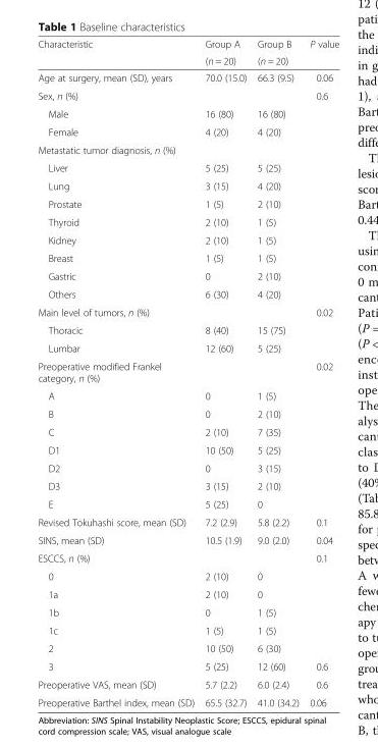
<table><thead><tr><td rowspan="2">Characteristic</td><td rowspan="2">Group A (n = 20)</td><td rowspan="2">Group B (n = 20)</td><td rowspan="2">P value</td></tr><tr></tr></thead><tbody><tr><td>Age at surgery, mean (SD), years</td><td>70.0 (15.0)</td><td>66.3 (9.5)</td><td>0.06</td></tr><tr><td>Sex, n (%)</td><td></td><td></td><td>0.6</td></tr><tr><td>Male</td><td>16 (80)</td><td>16 (80)</td><td></td></tr><tr><td>Female</td><td>4 (20)</td><td>4 (20)</td><td></td></tr><tr><td colspan="4">Metastatic tumor diagnosis, n (%)</td></tr><tr><td>Liver</td><td>5 (25)</td><td>5 (25)</td><td></td></tr><tr><td>Lung</td><td>3 (15)</td><td>4 (20)</td><td></td></tr><tr><td>Prostate</td><td>1 (5)</td><td>2 (10)</td><td></td></tr><tr><td>Thyroid</td><td>2 (10)</td><td>1 (5)</td><td></td></tr><tr><td>Kidney</td><td>2 (10)</td><td>1 (5)</td><td></td></tr><tr><td>Breast</td><td>1 (5)</td><td>1 (5)</td><td></td></tr><tr><td>Gastric</td><td>0</td><td>2 (10)</td><td></td></tr><tr><td>Others</td><td>6 (30)</td><td>4 (20)</td><td></td></tr><tr><td>Main level of tumors, n (%)</td><td></td><td></td><td>0.02</td></tr><tr><td>Thoracic</td><td>8 (40)</td><td>15 (75)</td><td></td></tr><tr><td>Lumbar</td><td>12 (60)</td><td>5 (25)</td><td></td></tr><tr><td>Preoperative modified Frankel category, n (%)</td><td></td><td></td><td>0.02</td></tr><tr><td>A</td><td>0</td><td>1 (5)</td><td></td></tr><tr><td>B</td><td>0</td><td>2 (10)</td><td></td></tr><tr><td>C</td><td>2 (10)</td><td>7 (35)</td><td></td></tr><tr><td>D1</td><td>10 (50)</td><td>5 (25)</td><td></td></tr><tr><td>D2</td><td>0</td><td>3 (15)</td><td></td></tr><tr><td>D3</td><td>3 (15)</td><td>2 (10)</td><td></td></tr><tr><td>E</td><td>5 (25)</td><td>0</td><td></td></tr><tr><td>Revised Tokuhashi score, mean (SD)</td><td>7.2 (2.9)</td><td>5.8 (2.2)</td><td>0.1</td></tr><tr><td>SINS, mean (SD)</td><td>10.5 (1.9)</td><td>9.0 (2.0)</td><td>0.04</td></tr><tr><td>ESCCS, n (%)</td><td></td><td></td><td>0.1</td></tr><tr><td>0</td><td>2 (10)</td><td>0</td><td></td></tr><tr><td>1a</td><td>2 (10)</td><td>0</td><td></td></tr><tr><td>1b</td><td>0</td><td>1 (5)</td><td></td></tr><tr><td>1c</td><td>1 (5)</td><td>1 (5)</td><td></td></tr><tr><td>2</td><td>10 (50)</td><td>6 (30)</td><td></td></tr><tr><td>3</td><td>5 (25)</td><td>12 (60)</td><td>0.6</td></tr><tr><td>Preoperative VAS, mean (SD)</td><td>5.7 (2.2)</td><td>6.0 (2.4)</td><td>0.6</td></tr><tr><td>Preoperative Barthel index, mean (SD)</td><td>65.5 (32.7)</td><td>41.0 (34.2)</td><td>0.06</td></tr></tbody></table>